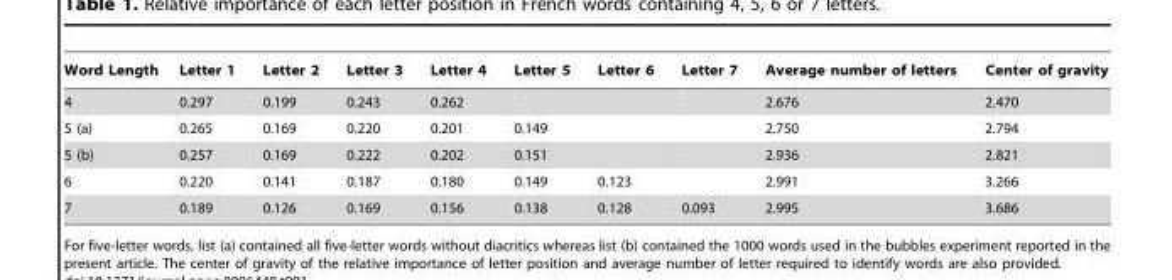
<table><thead><tr><td>Word Length</td><td>Letter 1</td><td>Letter 2</td><td>Letter 3</td><td>Letter 4</td><td>Letter 5</td><td>Letter 6</td><td>Letter 7</td><td>Average number of letters</td><td>Center of gravity</td></tr></thead><tbody><tr><td>4</td><td>0.297</td><td>0.199</td><td>0.243</td><td>0.262</td><td></td><td></td><td></td><td>2.676</td><td>2.470</td></tr><tr><td>5 (a)</td><td>0.265</td><td>0.169</td><td>0.220</td><td>0.201</td><td>0.149</td><td></td><td></td><td>2.750</td><td>2.794</td></tr><tr><td>5 (b)</td><td>0.257</td><td>0.169</td><td>0.222</td><td>0.202</td><td>0.151</td><td></td><td></td><td>2.936</td><td>2.821</td></tr><tr><td>6</td><td>0.220</td><td>0.141</td><td>0.187</td><td>0.180</td><td>0.149</td><td>0.123</td><td></td><td>2.991</td><td>3.266</td></tr><tr><td>7</td><td>0.189</td><td>0.126</td><td>0.169</td><td>0.156</td><td>0.138</td><td>0.128</td><td>0.093</td><td>2.995</td><td>3.686</td></tr></tbody></table>